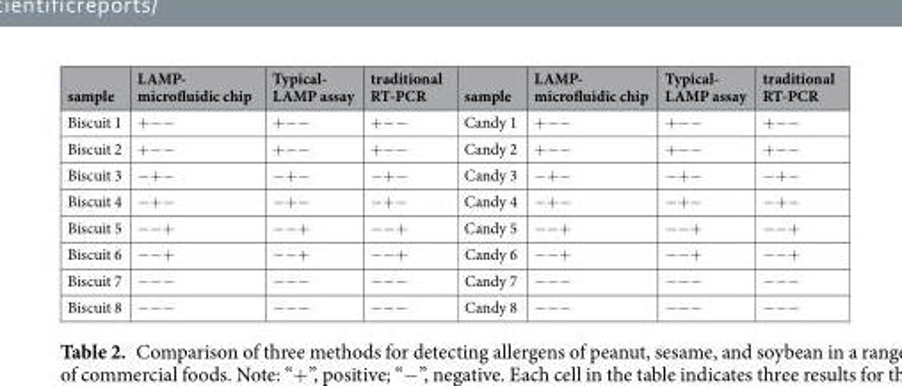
<table><thead><tr><td>sample</td><td>LAMP- microfluidic chip</td><td>Typical- LAMP assay</td><td>traditional RT-PCR</td><td>sample</td><td>LAMP- microfluidic chip</td><td>Typical- LAMP assay</td><td>traditional RT-PCR</td></tr></thead><tbody><tr><td>Biscuit 1</td><td>+−−</td><td>+−−</td><td>+−−</td><td>Candy 1</td><td>+−−</td><td>+−−</td><td>+−−</td></tr><tr><td>Biscuit 2</td><td>+−−</td><td>+−−</td><td>+−−</td><td>Candy 2</td><td>+−−</td><td>+−−</td><td>+−−</td></tr><tr><td>Biscuit 3</td><td>−+−</td><td>−+−</td><td>−+−</td><td>Candy 3</td><td>−+−</td><td>−+−</td><td>−+−</td></tr><tr><td>Biscuit 4</td><td>−+−</td><td>−+−</td><td>−+−</td><td>Candy 4</td><td>−+−</td><td>−+−</td><td>−+−</td></tr><tr><td>Biscuit 5</td><td>−−+</td><td>−−+</td><td>−−+</td><td>Candy 5</td><td>−−+</td><td>−−+</td><td>−−+</td></tr><tr><td>Biscuit 6</td><td>−−+</td><td>−−+</td><td>−−+</td><td>Candy 6</td><td>−−+</td><td>−−+</td><td>−−+</td></tr><tr><td>Biscuit 7</td><td>−−−</td><td>−−−</td><td>−−−</td><td>Candy 7</td><td>−−−</td><td>−−−</td><td>−−−</td></tr><tr><td>Biscuit 8</td><td>−−−</td><td>−−−</td><td>−−−</td><td>Candy 8</td><td>−−−</td><td>−−−</td><td>−−−</td></tr></tbody></table>